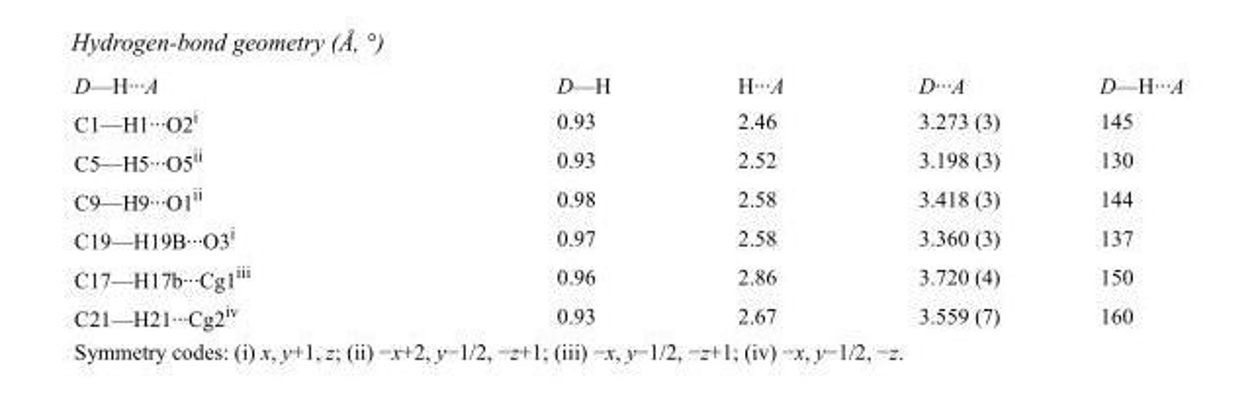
<table><tbody><tr><td>D—H···A</td><td>D—H</td><td>H···A</td><td>D···A</td><td>D—H···A</td></tr><tr><td>C1—H1···O2<sup>i</sup></td><td>0.93</td><td>2.46</td><td>3.273 (3)</td><td>145</td></tr><tr><td>C5—H5···O5<sup>ii</sup></td><td>0.93</td><td>2.52</td><td>3.198 (3)</td><td>130</td></tr><tr><td>C9—H9···O1<sup>ii</sup></td><td>0.98</td><td>2.58</td><td>3.418 (3)</td><td>144</td></tr><tr><td>C19—H19B···O3<sup>i</sup></td><td>0.97</td><td>2.58</td><td>3.360 (3)</td><td>137</td></tr><tr><td>C17—H17b···Cg1<sup>iii</sup></td><td>0.96</td><td>2.86</td><td>3.720 (4)</td><td>150</td></tr><tr><td>C21—H21···Cg2<sup>iv</sup></td><td>0.93</td><td>2.67</td><td>3.559 (7)</td><td>160</td></tr></tbody></table>